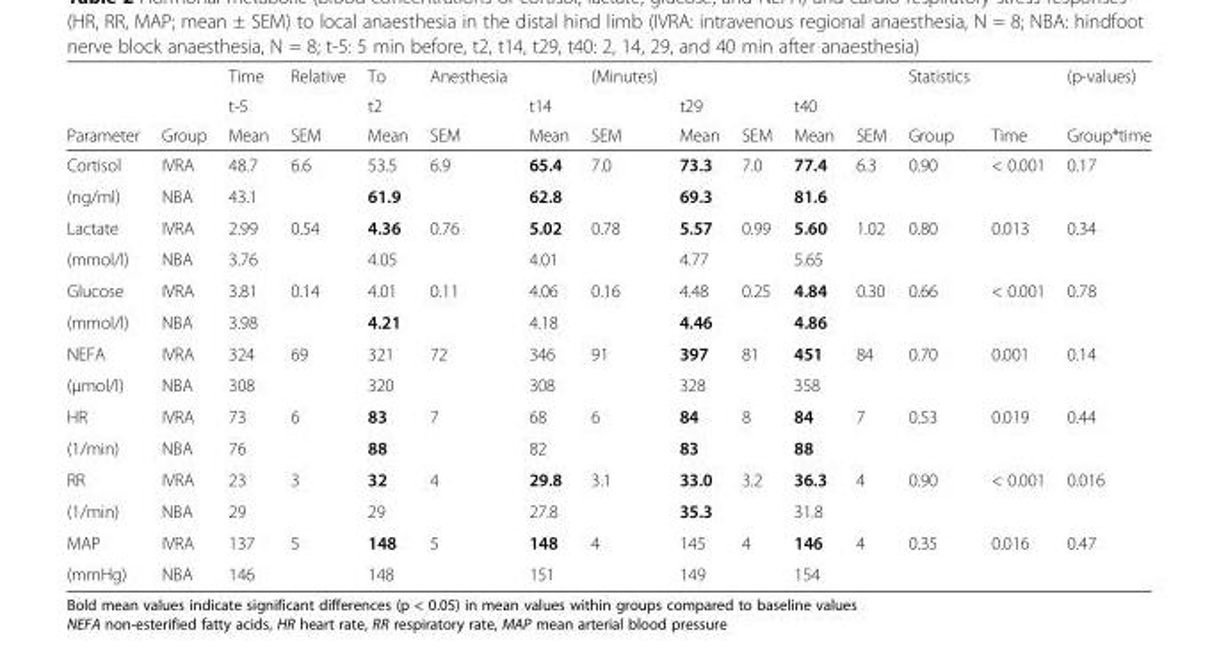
<table><thead><tr><td rowspan="3">Parameter</td><td rowspan="3">Group</td><td rowspan="3">Time t-5 Mean</td><td rowspan="3">Relative SEM</td><td rowspan="3">To t2 Mean</td><td rowspan="3">Anesthesia SEM</td><td rowspan="3">t14 Mean</td><td rowspan="3">(Minutes) SEM</td><td rowspan="3">t29 Mean</td><td rowspan="3">SEM</td><td rowspan="3">t40 Mean</td><td rowspan="3">SEM</td><td rowspan="3">Statistics Group</td><td rowspan="3">Time</td><td rowspan="3">(p-values) Group*time</td></tr><tr></tr><tr></tr></thead><tbody><tr><td>Cortisol</td><td>IVRA</td><td>48.7</td><td>6.6</td><td>53.5</td><td>6.9</td><td>65.4</td><td>7.0</td><td>73.3</td><td>7.0</td><td>77.4</td><td>6.3</td><td>0.90</td><td>&lt; 0.001</td><td>0.17</td></tr><tr><td>(ng/ml)</td><td>NBA</td><td>43.1</td><td></td><td>61.9</td><td></td><td>62.8</td><td></td><td>69.3</td><td></td><td>81.6</td><td></td><td></td><td></td><td></td></tr><tr><td>Lactate</td><td>IVRA</td><td>2.99</td><td>0.54</td><td>4.36</td><td>0.76</td><td>5.02</td><td>0.78</td><td>5.57</td><td>0.99</td><td>5.60</td><td>1.02</td><td>0.80</td><td>0.013</td><td>0.34</td></tr><tr><td>(mmol/l)</td><td>NBA</td><td>3.76</td><td></td><td>4.05</td><td></td><td>4.01</td><td></td><td>4.77</td><td></td><td>5.65</td><td></td><td></td><td></td><td></td></tr><tr><td>Glucose</td><td>IVRA</td><td>3.81</td><td>0.14</td><td>4.01</td><td>0.11</td><td>4.06</td><td>0.16</td><td>4.48</td><td>0.25</td><td>4.84</td><td>0.30</td><td>0.66</td><td>&lt; 0.001</td><td>0.78</td></tr><tr><td>(mmol/l)</td><td>NBA</td><td>3.98</td><td></td><td>4.21</td><td></td><td>4.18</td><td></td><td>4.46</td><td></td><td>4.86</td><td></td><td></td><td></td><td></td></tr><tr><td>NEFA</td><td>IVRA</td><td>324</td><td>69</td><td>321</td><td>72</td><td>346</td><td>91</td><td>397</td><td>81</td><td>451</td><td>84</td><td>0.70</td><td>0.001</td><td>0.14</td></tr><tr><td>(μmol/l)</td><td>NBA</td><td>308</td><td></td><td>320</td><td></td><td>308</td><td></td><td>328</td><td></td><td>358</td><td></td><td></td><td></td><td></td></tr><tr><td>HR</td><td>IVRA</td><td>73</td><td>6</td><td>83</td><td>7</td><td>68</td><td>6</td><td>84</td><td>8</td><td>84</td><td>7</td><td>0.53</td><td>0.019</td><td>0.44</td></tr><tr><td>(1/min)</td><td>NBA</td><td>76</td><td></td><td>88</td><td></td><td>82</td><td></td><td>83</td><td></td><td>88</td><td></td><td></td><td></td><td></td></tr><tr><td>RR</td><td>IVRA</td><td>23</td><td>3</td><td>32</td><td>4</td><td>29.8</td><td>3.1</td><td>33.0</td><td>3.2</td><td>36.3</td><td>4</td><td>0.90</td><td>&lt; 0.001</td><td>0.016</td></tr><tr><td>(1/min)</td><td>NBA</td><td>29</td><td></td><td>29</td><td></td><td>27.8</td><td></td><td>35.3</td><td></td><td>31.8</td><td></td><td></td><td></td><td></td></tr><tr><td>MAP</td><td>IVRA</td><td>137</td><td>5</td><td>148</td><td>5</td><td>148</td><td>4</td><td>145</td><td>4</td><td>146</td><td>4</td><td>0.35</td><td>0.016</td><td>0.47</td></tr><tr><td>(mmHg)</td><td>NBA</td><td>146</td><td></td><td>148</td><td></td><td>151</td><td></td><td>149</td><td></td><td>154</td><td></td><td></td><td></td><td></td></tr></tbody></table>